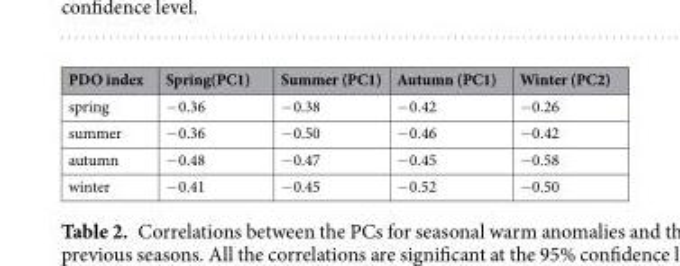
<table><thead><tr><td>PDO index</td><td>Spring(PC1)</td><td>Summer (PC1)</td><td>Autumn (PC1)</td><td>Winter (PC2)</td></tr></thead><tbody><tr><td>spring</td><td>−0.36</td><td>−0.38</td><td>−0.42</td><td>−0.26</td></tr><tr><td>summer</td><td>−0.36</td><td>−0.50</td><td>−0.46</td><td>−0.42</td></tr><tr><td>autumn</td><td>−0.48</td><td>−0.47</td><td>−0.45</td><td>−0.58</td></tr><tr><td>winter</td><td>−0.41</td><td>−0.45</td><td>−0.52</td><td>−0.50</td></tr></tbody></table>